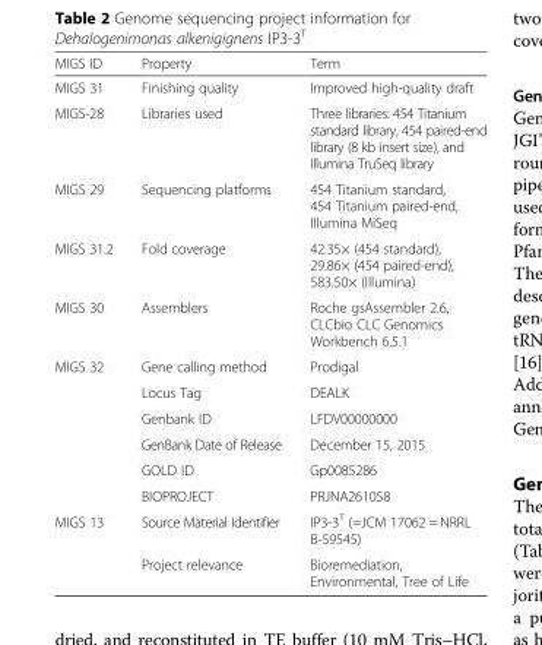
<table><thead><tr><td>MIGS ID</td><td>Property</td><td>Term</td></tr></thead><tbody><tr><td>MIGS 31</td><td>Finishing quality</td><td>Improved high-quality draft</td></tr><tr><td>MIGS-28</td><td>Libraries used</td><td>Three libraries: 454 Titanium standard library, 454 paired-end library (8 kb insert size), and Illumina TruSeq library</td></tr><tr><td>MIGS 29</td><td>Sequencing platforms</td><td>454 Titanium standard, 454 Titanium paired-end, Illumina MiSeq</td></tr><tr><td>MIGS 31.2</td><td>Fold coverage</td><td>42.35× (454 standard), 29.86× (454 paired-end), 583.50× (Illumina)</td></tr><tr><td>MIGS 30</td><td>Assemblers</td><td>Roche gsAssembler 2.6, CLCbio CLC Genomics Workbench 6.5.1</td></tr><tr><td rowspan="6">MIGS 32</td><td>Gene calling method</td><td>Prodigal</td></tr><tr><td>Locus Tag</td><td>DEALK</td></tr><tr><td>Genbank ID</td><td>LFDV00000000</td></tr><tr><td>GenBank Date of Release</td><td>December 15, 2015</td></tr><tr><td>GOLD ID</td><td>Gp0085286</td></tr><tr><td>BIOPROJECT</td><td>PRJNA261058</td></tr><tr><td rowspan="2">MIGS 13</td><td>Source Material Identifier</td><td>IP3-3<sup>T</sup> (=JCM 17062 = NRRL B-59545)</td></tr><tr><td>Project relevance</td><td>Bioremediation, Environmental, Tree of Life</td></tr></tbody></table>